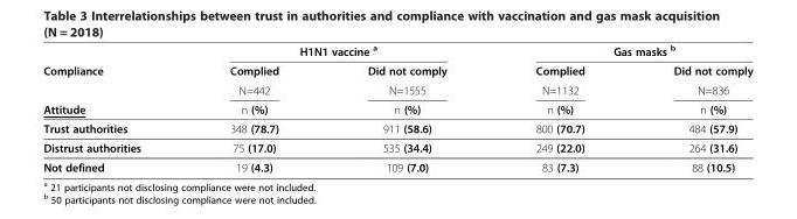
<table><thead><tr><td rowspan="4">Compliance Attitude</td><td colspan="2">H1N1 vaccine <sup>a</sup></td><td colspan="2">Gas masks <sup>b</sup></td></tr><tr><td rowspan="3">Complied N=442 n (%)</td><td rowspan="3">Did not comply N=1555 n (%)</td><td rowspan="3">Complied N=1132 n (%)</td><td rowspan="3">Did not comply N=836 n (%)</td></tr><tr></tr><tr></tr></thead><tbody><tr><td>Trust authorities</td><td>348 (78.7)</td><td>911 (58.6)</td><td>800 (70.7)</td><td>484 (57.9)</td></tr><tr><td>Distrust authorities</td><td>75 (17.0)</td><td>535 (34.4)</td><td>249 (22.0)</td><td>264 (31.6)</td></tr><tr><td>Not defined</td><td>19 (4.3)</td><td>109 (7.0)</td><td>83 (7.3)</td><td>88 (10.5)</td></tr></tbody></table>